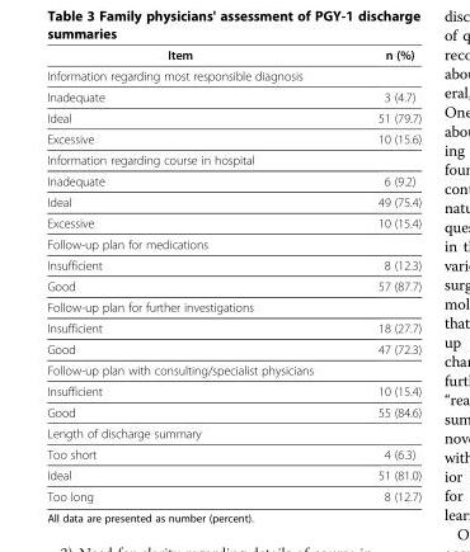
<table><thead><tr><td>Item</td><td>n (%)</td></tr></thead><tbody><tr><td colspan="2">Information regarding most responsible diagnosis</td></tr><tr><td>Inadequate</td><td>3 (4.7)</td></tr><tr><td>Ideal</td><td>51 (79.7)</td></tr><tr><td>Excessive</td><td>10 (15.6)</td></tr><tr><td colspan="2">Information regarding course in hospital</td></tr><tr><td>Inadequate</td><td>6 (9.2)</td></tr><tr><td>Ideal</td><td>49 (75.4)</td></tr><tr><td>Excessive</td><td>10 (15.4)</td></tr><tr><td colspan="2">Follow-up plan for medications</td></tr><tr><td>Insufficient</td><td>8 (12.3)</td></tr><tr><td>Good</td><td>57 (87.7)</td></tr><tr><td colspan="2">Follow-up plan for further investigations</td></tr><tr><td>Insufficient</td><td>18 (27.7)</td></tr><tr><td>Good</td><td>47 (72.3)</td></tr><tr><td colspan="2">Follow-up plan with consulting/specialist physicians</td></tr><tr><td>Insufficient</td><td>10 (15.4)</td></tr><tr><td>Good</td><td>55 (84.6)</td></tr><tr><td colspan="2">Length of discharge summary</td></tr><tr><td>Too short</td><td>4 (6.3)</td></tr><tr><td>Ideal</td><td>51 (81.0)</td></tr><tr><td>Too long</td><td>8 (12.7)</td></tr></tbody></table>